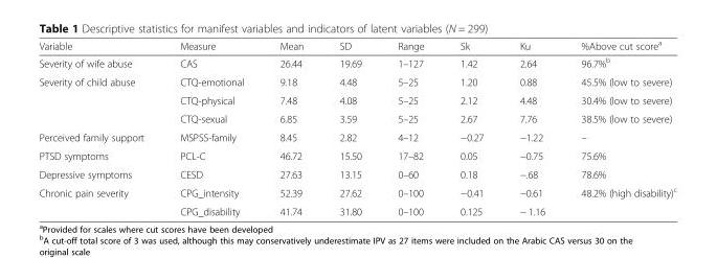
<table><thead><tr><td>Variable</td><td>Measure</td><td>Mean</td><td>SD</td><td>Range</td><td>Sk</td><td>Ku</td><td>%Above cut score<sup>a</sup></td></tr></thead><tbody><tr><td>Severity of wife abuse</td><td>CAS</td><td>26.44</td><td>19.69</td><td>1–127</td><td>1.42</td><td>2.64</td><td>96.7%<sup>b</sup></td></tr><tr><td rowspan="3">Severity of child abuse</td><td>CTQ-emotional</td><td>9.18</td><td>4.48</td><td>5–25</td><td>1.20</td><td>0.88</td><td>45.5% (low to severe)</td></tr><tr><td>CTQ-physical</td><td>7.48</td><td>4.08</td><td>5–25</td><td>2.12</td><td>4.48</td><td>30.4% (low to severe)</td></tr><tr><td>CTQ-sexual</td><td>6.85</td><td>3.59</td><td>5–25</td><td>2.67</td><td>7.76</td><td>38.5% (low to severe)</td></tr><tr><td>Perceived family support</td><td>MSPSS-family</td><td>8.45</td><td>2.82</td><td>4–12</td><td>−0.27</td><td>−1.22</td><td>–</td></tr><tr><td>PTSD symptoms</td><td>PCL-C</td><td>46.72</td><td>15.50</td><td>17–82</td><td>0.05</td><td>−0.75</td><td>75.6%</td></tr><tr><td>Depressive symptoms</td><td>CESD</td><td>27.63</td><td>13.15</td><td>0–60</td><td>0.18</td><td>−.68</td><td>78.6%</td></tr><tr><td rowspan="2">Chronic pain severity</td><td>CPG_intensity</td><td>52.39</td><td>27.62</td><td>0–100</td><td>−0.41</td><td>−0.61</td><td rowspan="2">48.2% (high disability)<sup>c</sup></td></tr><tr><td>CPG_disability</td><td>41.74</td><td>31.80</td><td>0–100</td><td>0.125</td><td>− 1.16</td></tr></tbody></table>